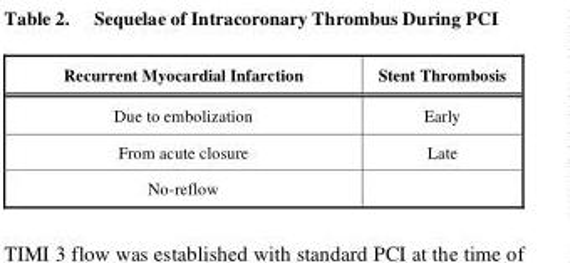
<table><thead><tr><td>Recurrent Myocardial Infarction</td><td>Stent Thrombosis</td></tr></thead><tbody><tr><td>Due to embolization</td><td>Early</td></tr><tr><td>From acute closure</td><td>Late</td></tr><tr><td>No-reflow</td><td></td></tr></tbody></table>